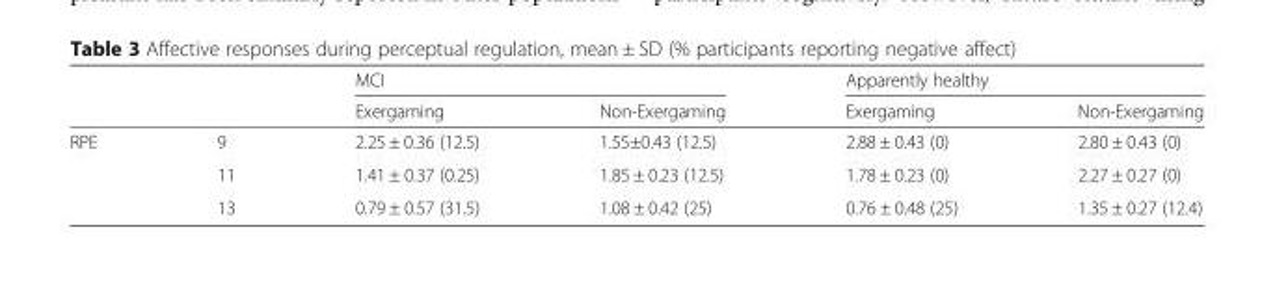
<table><thead><tr><td rowspan="2"></td><td rowspan="2"></td><td colspan="2">MCI</td><td colspan="2">Apparently healthy</td></tr><tr><td>Exergaming</td><td>Non-Exergaming</td><td>Exergaming</td><td>Non-Exergaming</td></tr></thead><tbody><tr><td rowspan="3">RPE</td><td>9</td><td>2.25 ± 0.36 (12.5)</td><td>1.55±0.43 (12.5)</td><td>2.88 ± 0.43 (0)</td><td>2.80 ± 0.43 (0)</td></tr><tr><td>11</td><td>1.41 ± 0.37 (0.25)</td><td>1.85 ± 0.23 (12.5)</td><td>1.78 ± 0.23 (0)</td><td>2.27 ± 0.27 (0)</td></tr><tr><td>13</td><td>0.79 ± 0.57 (31.5)</td><td>1.08 ± 0.42 (25)</td><td>0.76 ± 0.48 (25)</td><td>1.35 ± 0.27 (12.4)</td></tr></tbody></table>